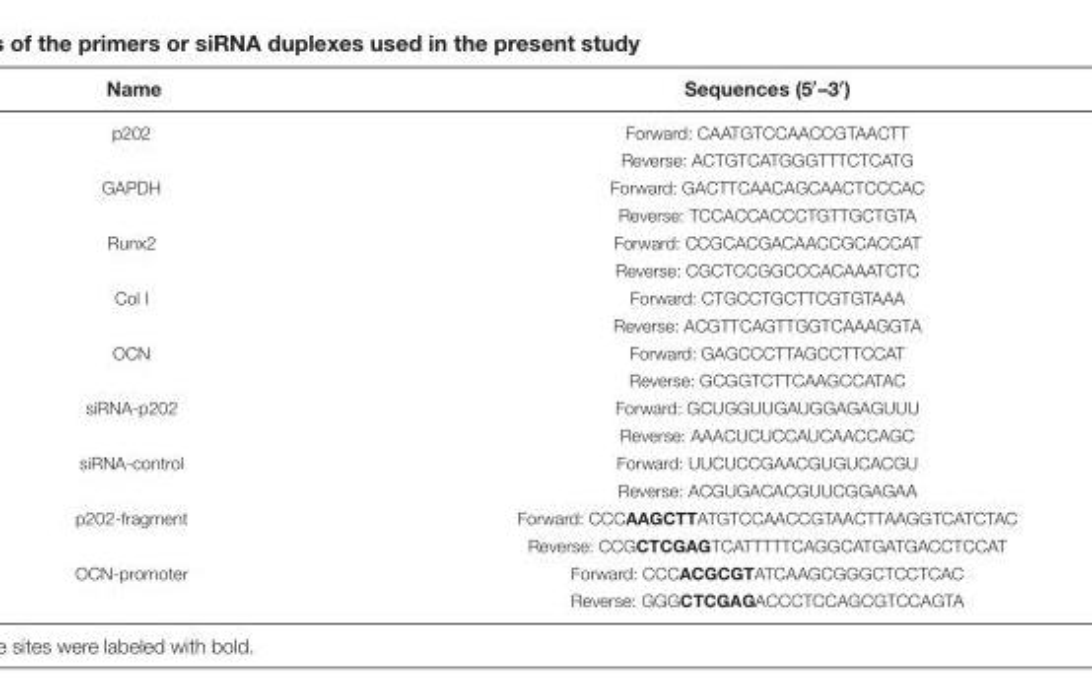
<table><thead><tr><td>Name</td><td>Sequences (5′–3′)</td></tr></thead><tbody><tr><td rowspan="2">p202</td><td>Forward: CAATGTCCAACCGTAACTT</td></tr><tr><td>Reverse: ACTGTCATGGGTTTCTCATG</td></tr><tr><td rowspan="2">GAPDH</td><td>Forward: GACTTCAACAGCAACTCCCAC</td></tr><tr><td>Reverse: TCCACCACCCTGTTGCTGTA</td></tr><tr><td rowspan="2">Runx2</td><td>Forward: CCGCACGACAACCGCACCAT</td></tr><tr><td>Reverse: CGCTCCGGCCCACAAATCTC</td></tr><tr><td rowspan="2">Col I</td><td>Forward: CTGCCTGCTTCGTGTAAA</td></tr><tr><td>Reverse: ACGTTCAGTTGGTCAAAGGTA</td></tr><tr><td rowspan="2">OCN</td><td>Forward: GAGCCCTTAGCCTTCCAT</td></tr><tr><td>Reverse: GCGGTCTTCAAGCCATAC</td></tr><tr><td rowspan="2">siRNA-p202</td><td>Forward: GCUGGUUGAUGGAGAGUUU</td></tr><tr><td>Reverse: AAACUCUCCAUCAACCAGC</td></tr><tr><td rowspan="2">siRNA-control</td><td>Forward: UUCUCCGAACGUGUCACGU</td></tr><tr><td>Reverse: ACGUGACACGUUCGGAGAA</td></tr><tr><td rowspan="2">p202-fragment</td><td>Forward: CCCAAGCTTATGTCCAACCGTAACTTAAGGTCATCTAC</td></tr><tr><td>Reverse: CCGCTCGAGTCATTTTTCAGGCATGATGACCTCCAT</td></tr><tr><td rowspan="2">OCN-promoter</td><td>Forward: CCCACGCGTATCAAGCGGGCTCCTCAC</td></tr><tr><td>Reverse: GGGCTCGAGACCCTCCAGCGTCCAGTA</td></tr></tbody></table>